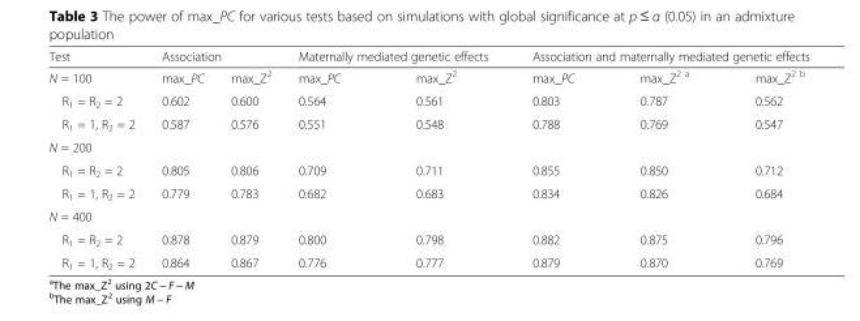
<table><thead><tr><td rowspan="2">Test N = 100</td><td colspan="2">Association</td><td colspan="2">Maternally mediated genetic effects</td><td colspan="3">Association and maternally mediated genetic effects</td></tr><tr><td>max_PC</td><td>max_Z<sup>2</sup></td><td>max_PC</td><td>max_Z<sup>2</sup></td><td>max_PC</td><td>max_Z<sup>2 a</sup></td><td>max_Z<sup>2 b</sup></td></tr></thead><tbody><tr><td>R<sub>1</sub> = R<sub>2</sub> = 2</td><td>0.602</td><td>0.600</td><td>0.564</td><td>0.561</td><td>0.803</td><td>0.787</td><td>0.562</td></tr><tr><td>R<sub>1</sub> = 1, R<sub>2</sub> = 2</td><td>0.587</td><td>0.576</td><td>0.551</td><td>0.548</td><td>0.788</td><td>0.769</td><td>0.547</td></tr><tr><td colspan="8">N = 200</td></tr><tr><td>R<sub>1</sub> = R<sub>2</sub> = 2</td><td>0.805</td><td>0.806</td><td>0.709</td><td>0.711</td><td>0.855</td><td>0.850</td><td>0.712</td></tr><tr><td>R<sub>1</sub> = 1, R<sub>2</sub> = 2</td><td>0.779</td><td>0.783</td><td>0.682</td><td>0.683</td><td>0.834</td><td>0.826</td><td>0.684</td></tr><tr><td colspan="8">N = 400</td></tr><tr><td>R<sub>1</sub> = R<sub>2</sub> = 2</td><td>0.878</td><td>0.879</td><td>0.800</td><td>0.798</td><td>0.882</td><td>0.875</td><td>0.796</td></tr><tr><td>R<sub>1</sub> = 1, R<sub>2</sub> = 2</td><td>0.864</td><td>0.867</td><td>0.776</td><td>0.777</td><td>0.879</td><td>0.870</td><td>0.769</td></tr></tbody></table>